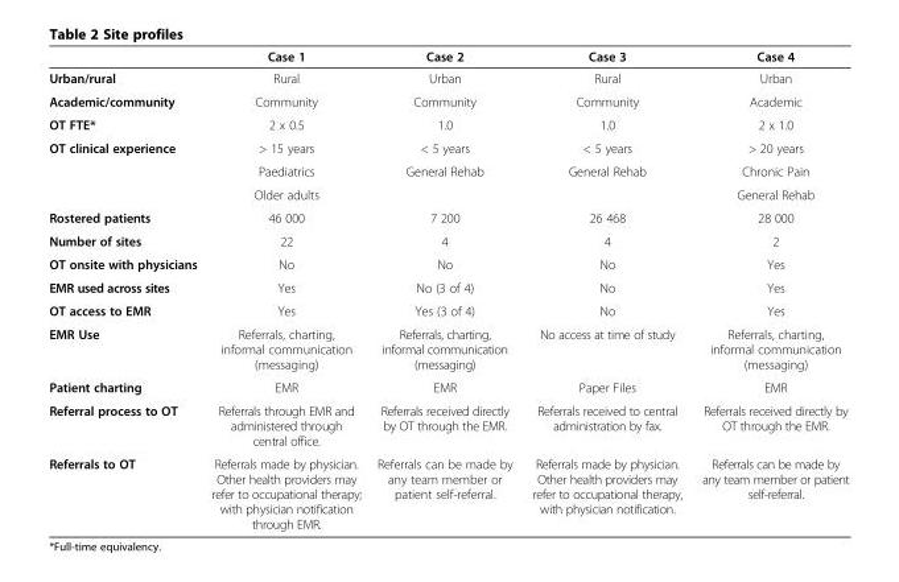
<table><thead><tr><td></td><td>Case 1</td><td>Case 2</td><td>Case 3</td><td>Case 4</td></tr></thead><tbody><tr><td>Urban/rural</td><td>Rural</td><td>Urban</td><td>Rural</td><td>Urban</td></tr><tr><td>Academic/community</td><td>Community</td><td>Community</td><td>Community</td><td>Academic</td></tr><tr><td>OT FTE*</td><td>2 x 0.5</td><td>1.0</td><td>1.0</td><td>2 x 1.0</td></tr><tr><td rowspan="3">OT clinical experience</td><td>&gt; 15 years</td><td>&lt; 5 years</td><td>&lt; 5 years</td><td>&gt; 20 years</td></tr><tr><td>Paediatrics</td><td>General Rehab</td><td>General Rehab</td><td>Chronic Pain</td></tr><tr><td>Older adults</td><td></td><td></td><td>General Rehab</td></tr><tr><td>Rostered patients</td><td>46 000</td><td>7 200</td><td>26 468</td><td>28 000</td></tr><tr><td>Number of sites</td><td>22</td><td>4</td><td>4</td><td>2</td></tr><tr><td>OT onsite with physicians</td><td>No</td><td>No</td><td>No</td><td>Yes</td></tr><tr><td>EMR used across sites</td><td>Yes</td><td>No (3 of 4)</td><td>No</td><td>Yes</td></tr><tr><td>OT access to EMR</td><td>Yes</td><td>Yes (3 of 4)</td><td>No</td><td>Yes</td></tr><tr><td>EMR Use</td><td>Referrals, charting, informal communication (messaging)</td><td>Referrals, charting, informal communication (messaging)</td><td>No access at time of study</td><td>Referrals, charting, informal communication (messaging)</td></tr><tr><td>Patient charting</td><td>EMR</td><td>EMR</td><td>Paper Files</td><td>EMR</td></tr><tr><td>Referral process to OT</td><td>Referrals through EMR and administered through central office.</td><td>Referrals received directly by OT through the EMR.</td><td>Referrals received to central administration by fax.</td><td>Referrals received directly by OT through the EMR.</td></tr><tr><td>Referrals to OT</td><td>Referrals made by physician. Other health providers may refer to occupational therapy; with physician notification through EMR.</td><td>Referrals can be made by any team member or patient self-referral.</td><td>Referrals made by physician. Other health providers may refer to occupational therapy, with physician notification.</td><td>Referrals can be made by any team member or patient self-referral.</td></tr></tbody></table>